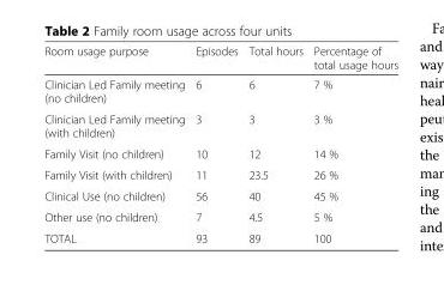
<table><thead><tr><td>Room usage purpose</td><td>Episodes</td><td>Total hours</td><td>Percentage of total usage hours</td></tr></thead><tbody><tr><td>Clinician Led Family meeting (no children)</td><td>6</td><td>6</td><td>7 %</td></tr><tr><td>Clinician Led Family meeting (with children)</td><td>3</td><td>3</td><td>3 %</td></tr><tr><td>Family Visit (no children)</td><td>10</td><td>12</td><td>14 %</td></tr><tr><td>Family Visit (with children)</td><td>11</td><td>23.5</td><td>26 %</td></tr><tr><td>Clinical Use (no children)</td><td>56</td><td>40</td><td>45 %</td></tr><tr><td>Other use (no children)</td><td>7</td><td>4.5</td><td>5 %</td></tr><tr><td>TOTAL</td><td>93</td><td>89</td><td>100</td></tr></tbody></table>